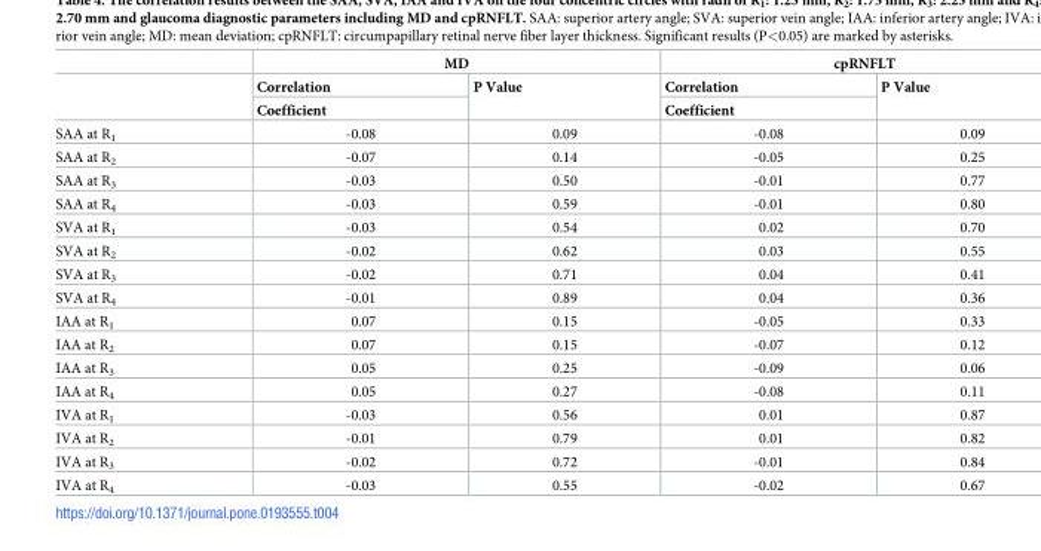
<table><thead><tr><td rowspan="3"></td><td colspan="2">MD</td><td colspan="2">cpRNFLT</td></tr><tr><td rowspan="2">Correlation Coefficient</td><td rowspan="2">P Value</td><td rowspan="2">Correlation Coefficient</td><td rowspan="2">P Value</td></tr><tr></tr></thead><tbody><tr><td>SAA at R<sub>1</sub></td><td>-0.08</td><td>0.09</td><td>-0.08</td><td>0.09</td></tr><tr><td>SAA at R<sub>2</sub></td><td>-0.07</td><td>0.14</td><td>-0.05</td><td>0.25</td></tr><tr><td>SAA at R<sub>3</sub></td><td>-0.03</td><td>0.50</td><td>-0.01</td><td>0.77</td></tr><tr><td>SAA at R<sub>4</sub></td><td>-0.03</td><td>0.59</td><td>-0.01</td><td>0.80</td></tr><tr><td>SVA at R<sub>1</sub></td><td>-0.03</td><td>0.54</td><td>0.02</td><td>0.70</td></tr><tr><td>SVA at R<sub>2</sub></td><td>-0.02</td><td>0.62</td><td>0.03</td><td>0.55</td></tr><tr><td>SVA at R<sub>3</sub></td><td>-0.02</td><td>0.71</td><td>0.04</td><td>0.41</td></tr><tr><td>SVA at R<sub>4</sub></td><td>-0.01</td><td>0.89</td><td>0.04</td><td>0.36</td></tr><tr><td>IAA at R<sub>1</sub></td><td>0.07</td><td>0.15</td><td>-0.05</td><td>0.33</td></tr><tr><td>IAA at R<sub>2</sub></td><td>0.07</td><td>0.15</td><td>-0.07</td><td>0.12</td></tr><tr><td>IAA at R<sub>3</sub></td><td>0.05</td><td>0.25</td><td>-0.09</td><td>0.06</td></tr><tr><td>IAA at R<sub>4</sub></td><td>0.05</td><td>0.27</td><td>-0.08</td><td>0.11</td></tr><tr><td>IVA at R<sub>1</sub></td><td>-0.03</td><td>0.56</td><td>0.01</td><td>0.87</td></tr><tr><td>IVA at R<sub>2</sub></td><td>-0.01</td><td>0.79</td><td>0.01</td><td>0.82</td></tr><tr><td>IVA at R<sub>3</sub></td><td>-0.02</td><td>0.72</td><td>-0.01</td><td>0.84</td></tr><tr><td>IVA at R<sub>4</sub></td><td>-0.03</td><td>0.55</td><td>-0.02</td><td>0.67</td></tr></tbody></table>